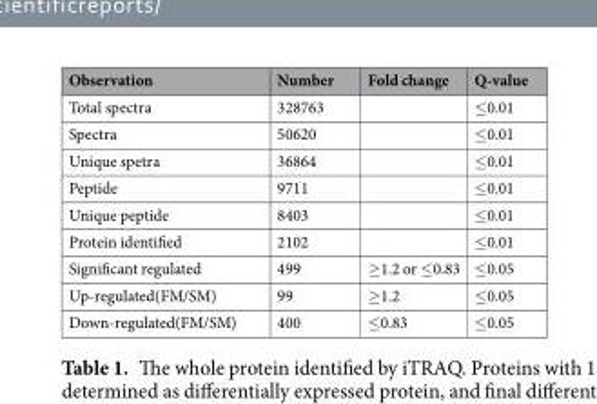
<table><thead><tr><td>Observation</td><td>Number</td><td>Fold change</td><td>Q-value</td></tr></thead><tbody><tr><td>Total spectra</td><td>328763</td><td></td><td>≤0.01</td></tr><tr><td>Spectra</td><td>50620</td><td></td><td>≤0.01</td></tr><tr><td>Unique spetra</td><td>36864</td><td></td><td>≤0.01</td></tr><tr><td>Peptide</td><td>9711</td><td></td><td>≤0.01</td></tr><tr><td>Unique peptide</td><td>8403</td><td></td><td>≤0.01</td></tr><tr><td>Protein identified</td><td>2102</td><td></td><td>≤0.01</td></tr><tr><td>Significant regulated</td><td>499</td><td>≥1.2 or ≤0.83</td><td>≤0.05</td></tr><tr><td>Up-regulated(FM/SM)</td><td>99</td><td>≥1.2</td><td>≤0.05</td></tr><tr><td>Down-regulated(FM/SM)</td><td>400</td><td>≤0.83</td><td>≤0.05</td></tr></tbody></table>